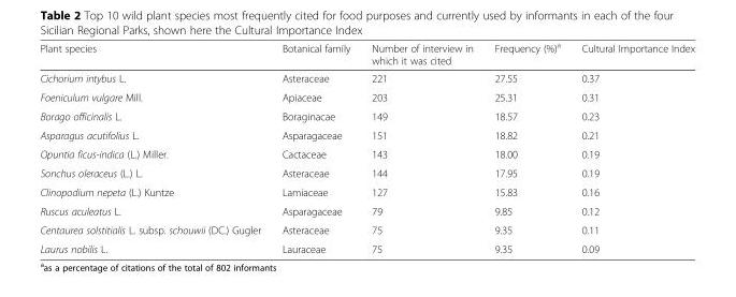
<table><thead><tr><td>Plant species</td><td>Botanical family</td><td>Number of interview in which it was cited</td><td>Frequency (%)<sup>a</sup></td><td>Cultural Importance Index</td></tr></thead><tbody><tr><td>Cichorium intybus L.</td><td>Asteraceae</td><td>221</td><td>27.55</td><td>0.37</td></tr><tr><td>Foeniculum vulgare Mill.</td><td>Apiaceae</td><td>203</td><td>25.31</td><td>0.31</td></tr><tr><td>Borago officinalis L.</td><td>Boraginacae</td><td>149</td><td>18.57</td><td>0.23</td></tr><tr><td>Asparagus acutifolius L.</td><td>Asparagaceae</td><td>151</td><td>18.82</td><td>0.21</td></tr><tr><td>Opuntia ficus-indica (L.) Miller.</td><td>Cactaceae</td><td>143</td><td>18.00</td><td>0.19</td></tr><tr><td>Sonchus oleraceus (L.) L.</td><td>Asteraceae</td><td>144</td><td>17.95</td><td>0.19</td></tr><tr><td>Clinopodium nepeta (L.) Kuntze</td><td>Lamiaceae</td><td>127</td><td>15.83</td><td>0.16</td></tr><tr><td>Ruscus aculeatus L.</td><td>Asparagaceae</td><td>79</td><td>9.85</td><td>0.12</td></tr><tr><td>Centaurea solstitialis L. subsp. schouwii (DC.) Gugler</td><td>Asteraceae</td><td>75</td><td>9.35</td><td>0.11</td></tr><tr><td>Laurus nobilis L.</td><td>Lauraceae</td><td>75</td><td>9.35</td><td>0.09</td></tr></tbody></table>